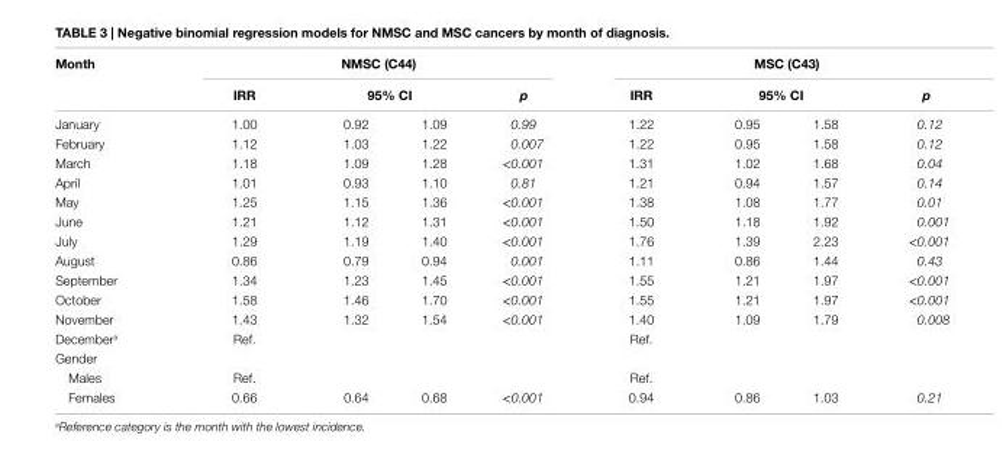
<table><thead><tr><td rowspan="3">Month January</td><td colspan="4">nMsc (c44)</td><td colspan="4">Msc (c43)</td></tr><tr><td rowspan="2">irr 1.00</td><td colspan="2">95% ci</td><td rowspan="2">p 0.99</td><td rowspan="2">irr 1.22</td><td colspan="2">95% ci</td><td rowspan="2">p 0.12</td></tr><tr><td>0.92</td><td>1.09</td><td>0.95</td><td>1.58</td></tr></thead><tbody><tr><td>February</td><td>1.12</td><td>1.03</td><td>1.22</td><td>0.007</td><td>1.22</td><td>0.95</td><td>1.58</td><td>0.12</td></tr><tr><td>March</td><td>1.18</td><td>1.09</td><td>1.28</td><td>&lt;0.001</td><td>1.31</td><td>1.02</td><td>1.68</td><td>0.04</td></tr><tr><td>April</td><td>1.01</td><td>0.93</td><td>1.10</td><td>0.81</td><td>1.21</td><td>0.94</td><td>1.57</td><td>0.14</td></tr><tr><td>May</td><td>1.25</td><td>1.15</td><td>1.36</td><td>&lt;0.001</td><td>1.38</td><td>1.08</td><td>1.77</td><td>0.01</td></tr><tr><td>June</td><td>1.21</td><td>1.12</td><td>1.31</td><td>&lt;0.001</td><td>1.50</td><td>1.18</td><td>1.92</td><td>0.001</td></tr><tr><td>July</td><td>1.29</td><td>1.19</td><td>1.40</td><td>&lt;0.001</td><td>1.76</td><td>1.39</td><td>2.23</td><td>&lt;0.001</td></tr><tr><td>August</td><td>0.86</td><td>0.79</td><td>0.94</td><td>0.001</td><td>1.11</td><td>0.86</td><td>1.44</td><td>0.43</td></tr><tr><td>September</td><td>1.34</td><td>1.23</td><td>1.45</td><td>&lt;0.001</td><td>1.55</td><td>1.21</td><td>1.97</td><td>&lt;0.001</td></tr><tr><td>October</td><td>1.58</td><td>1.46</td><td>1.70</td><td>&lt;0.001</td><td>1.55</td><td>1.21</td><td>1.97</td><td>&lt;0.001</td></tr><tr><td>November</td><td>1.43</td><td>1.32</td><td>1.54</td><td>&lt;0.001</td><td>1.40</td><td>1.09</td><td>1.79</td><td>0.008</td></tr><tr><td>December<sup>a</sup></td><td>Ref.</td><td></td><td></td><td></td><td>Ref.</td><td></td><td></td><td></td></tr><tr><td colspan="9">Gender</td></tr><tr><td>Males</td><td>Ref.</td><td></td><td></td><td></td><td>Ref.</td><td></td><td></td><td></td></tr><tr><td>Females</td><td>0.66</td><td>0.64</td><td>0.68</td><td>&lt;0.001</td><td>0.94</td><td>0.86</td><td>1.03</td><td>0.21</td></tr></tbody></table>